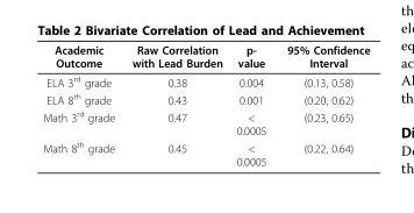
<table><thead><tr><td>Academic Outcome</td><td>Raw Correlation with Lead Burden</td><td>p- value</td><td>95% Confidence Interval</td></tr></thead><tbody><tr><td>ELA 3<sup>rd</sup> grade</td><td>0.38</td><td>0.004</td><td>(0.13, 0.58)</td></tr><tr><td>ELA 8<sup>th</sup> grade</td><td>0.43</td><td>0.001</td><td>(0.20, 0.62)</td></tr><tr><td>Math 3<sup>rd</sup> grade</td><td>0.47</td><td>&lt; 0.0005</td><td>(0.23, 0.65)</td></tr><tr><td>Math 8<sup>th</sup> grade</td><td>0.45</td><td>&lt; 0.0005</td><td>(0.22, 0.64)</td></tr></tbody></table>